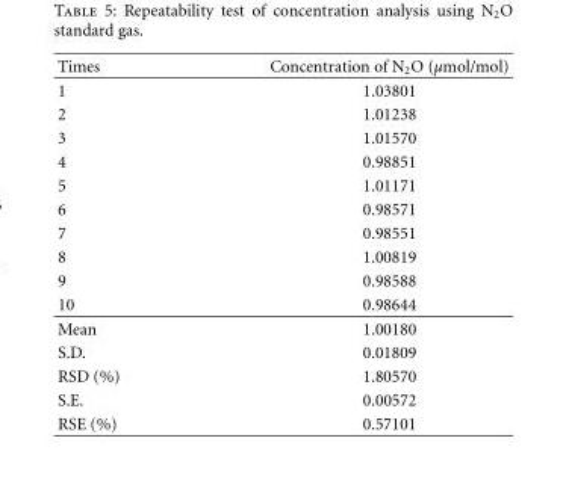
<table><thead><tr><td>Times</td><td>Concentration of N<sub>2</sub>O (µmol/mol)</td></tr></thead><tbody><tr><td>1</td><td>1.03801</td></tr><tr><td>2</td><td>1.01238</td></tr><tr><td>3</td><td>1.01570</td></tr><tr><td>4</td><td>0.98851</td></tr><tr><td>5</td><td>1.01171</td></tr><tr><td>6</td><td>0.98571</td></tr><tr><td>7</td><td>0.98551</td></tr><tr><td>8</td><td>1.00819</td></tr><tr><td>9</td><td>0.98588</td></tr><tr><td>10</td><td>0.98644</td></tr><tr><td>Mean</td><td>1.00180</td></tr><tr><td>S.D.</td><td>0.01809</td></tr><tr><td>RSD (%)</td><td>1.80570</td></tr><tr><td>S.E.</td><td>0.00572</td></tr><tr><td>RSE (%)</td><td>0.57101</td></tr></tbody></table>